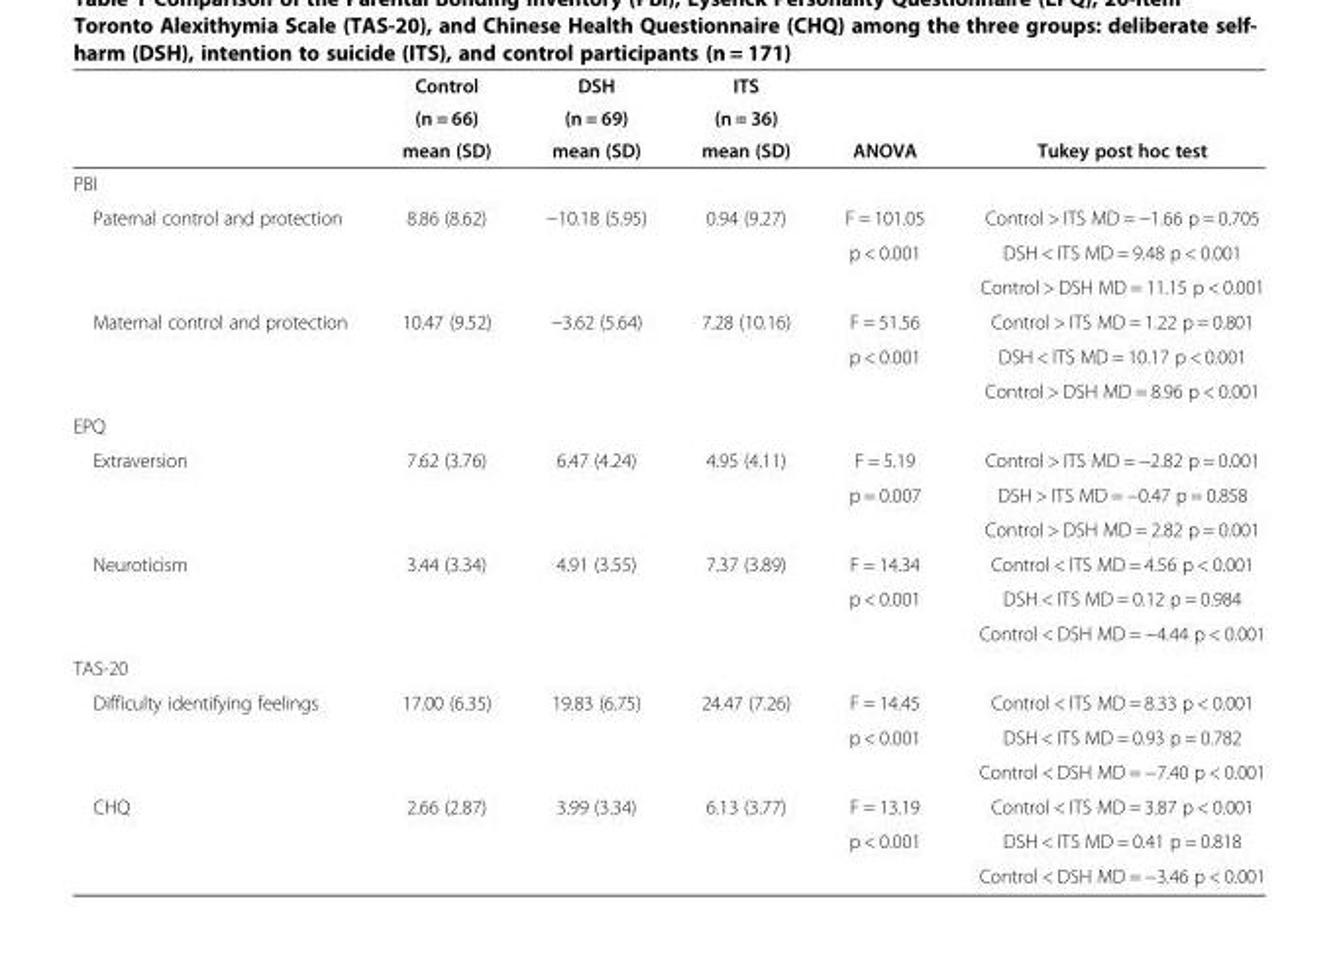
<table><thead><tr><td rowspan="3"></td><td rowspan="3">Control (n = 66) mean (SD)</td><td rowspan="3">DSH (n = 69) mean (SD)</td><td rowspan="3">ITS (n = 36) mean (SD)</td><td rowspan="3">ANOVA</td><td rowspan="3">Tukey post hoc test</td></tr><tr></tr><tr></tr></thead><tbody><tr><td colspan="6">PBI</td></tr><tr><td rowspan="3">Paternal control and protection</td><td rowspan="3">8.86 (8.62)</td><td rowspan="3">−10.18 (5.95)</td><td rowspan="3">0.94 (9.27)</td><td>F = 101.05</td><td>Control &gt; ITS MD = −1.66 p = 0.705</td></tr><tr><td>p &lt; 0.001</td><td>DSH &lt; ITS MD = 9.48 p &lt; 0.001</td></tr><tr><td></td><td>Control &gt; DSH MD = 11.15 p &lt; 0.001</td></tr><tr><td rowspan="3">Maternal control and protection</td><td rowspan="3">10.47 (9.52)</td><td rowspan="3">−3.62 (5.64)</td><td rowspan="3">7.28 (10.16)</td><td>F = 51.56</td><td>Control &gt; ITS MD = 1.22 p = 0.801</td></tr><tr><td>p &lt; 0.001</td><td>DSH &lt; ITS MD = 10.17 p &lt; 0.001</td></tr><tr><td></td><td>Control &gt; DSH MD = 8.96 p &lt; 0.001</td></tr><tr><td colspan="6">EPQ</td></tr><tr><td rowspan="3">Extraversion</td><td rowspan="3">7.62 (3.76)</td><td rowspan="3">6.47 (4.24)</td><td rowspan="3">4.95 (4.11)</td><td>F = 5.19</td><td>Control &gt; ITS MD = −2.82 p = 0.001</td></tr><tr><td>p = 0.007</td><td>DSH &gt; ITS MD = −0.47 p = 0.858</td></tr><tr><td></td><td>Control &gt; DSH MD = 2.82 p = 0.001</td></tr><tr><td rowspan="3">Neuroticism</td><td rowspan="3">3.44 (3.34)</td><td rowspan="3">4.91 (3.55)</td><td rowspan="3">7.37 (3.89)</td><td>F = 14.34</td><td>Control &lt; ITS MD = 4.56 p &lt; 0.001</td></tr><tr><td>p &lt; 0.001</td><td>DSH &lt; ITS MD = 0.12 p = 0.984</td></tr><tr><td></td><td>Control &lt; DSH MD = −4.44 p &lt; 0.001</td></tr><tr><td colspan="6">TAS-20</td></tr><tr><td rowspan="3">Difficulty identifying feelings</td><td rowspan="3">17.00 (6.35)</td><td rowspan="3">19.83 (6.75)</td><td rowspan="3">24.47 (7.26)</td><td>F = 14.45</td><td>Control &lt; ITS MD = 8.33 p &lt; 0.001</td></tr><tr><td>p &lt; 0.001</td><td>DSH &lt; ITS MD = 0.93 p = 0.782</td></tr><tr><td></td><td>Control &lt; DSH MD = −7.40 p &lt; 0.001</td></tr><tr><td rowspan="3">CHQ</td><td rowspan="3">2.66 (2.87)</td><td rowspan="3">3.99 (3.34)</td><td rowspan="3">6.13 (3.77)</td><td>F = 13.19</td><td>Control &lt; ITS MD = 3.87 p &lt; 0.001</td></tr><tr><td>p &lt; 0.001</td><td>DSH &lt; ITS MD = 0.41 p = 0.818</td></tr><tr><td></td><td>Control &lt; DSH MD = −3.46 p &lt; 0.001</td></tr></tbody></table>